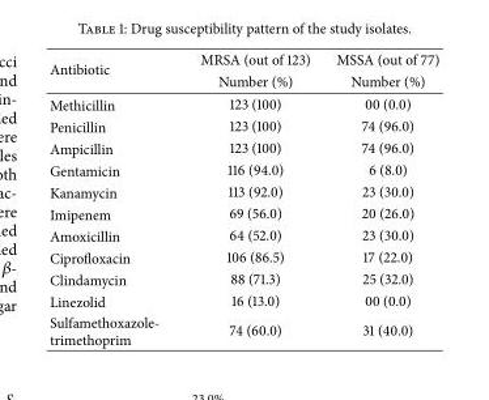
<table><thead><tr><td rowspan="2">Antibiotic</td><td rowspan="2">MRSA (out of 123) Number (%)</td><td rowspan="2">MSSA (out of 77) Number (%)</td></tr><tr></tr></thead><tbody><tr><td>Methicillin</td><td>123 (100)</td><td>00 (0.0)</td></tr><tr><td>Penicillin</td><td>123 (100)</td><td>74 (96.0)</td></tr><tr><td>Ampicillin</td><td>123 (100)</td><td>74 (96.0)</td></tr><tr><td>Gentamicin</td><td>116 (94.0)</td><td>6 (8.0)</td></tr><tr><td>Kanamycin</td><td>113 (92.0)</td><td>23 (30.0)</td></tr><tr><td>Imipenem</td><td>69 (56.0)</td><td>20 (26.0)</td></tr><tr><td>Amoxicillin</td><td>64 (52.0)</td><td>23 (30.0)</td></tr><tr><td>Ciprofloxacin</td><td>106 (86.5)</td><td>17 (22.0)</td></tr><tr><td>Clindamycin</td><td>88 (71.3)</td><td>25 (32.0)</td></tr><tr><td>Linezolid</td><td>16 (13.0)</td><td>00 (0.0)</td></tr><tr><td>Sulfamethoxazole- trimethoprim</td><td>74 (60.0)</td><td>31 (40.0)</td></tr></tbody></table>